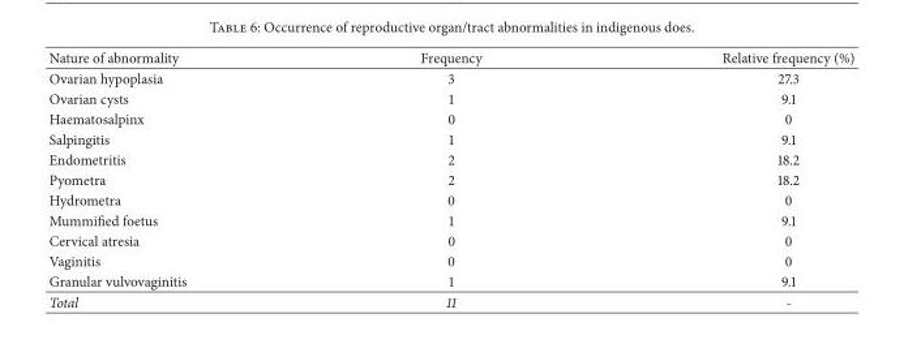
<table><thead><tr><td>Nature of abnormality</td><td>Frequency</td><td>Relative frequency (%)</td></tr></thead><tbody><tr><td>Ovarian hypoplasia</td><td>3</td><td>27.3</td></tr><tr><td>Ovarian cysts</td><td>1</td><td>9.1</td></tr><tr><td>Haematosalpinx</td><td>0</td><td>0</td></tr><tr><td>Salpingitis</td><td>1</td><td>9.1</td></tr><tr><td>Endometritis</td><td>2</td><td>18.2</td></tr><tr><td>Pyometra</td><td>2</td><td>18.2</td></tr><tr><td>Hydrometra</td><td>0</td><td>0</td></tr><tr><td>Mummified foetus</td><td>1</td><td>9.1</td></tr><tr><td>Cervical atresia</td><td>0</td><td>0</td></tr><tr><td>Vaginitis</td><td>0</td><td>0</td></tr><tr><td>Granular vulvovaginitis</td><td>1</td><td>9.1</td></tr><tr><td>Total</td><td>11</td><td>-</td></tr></tbody></table>